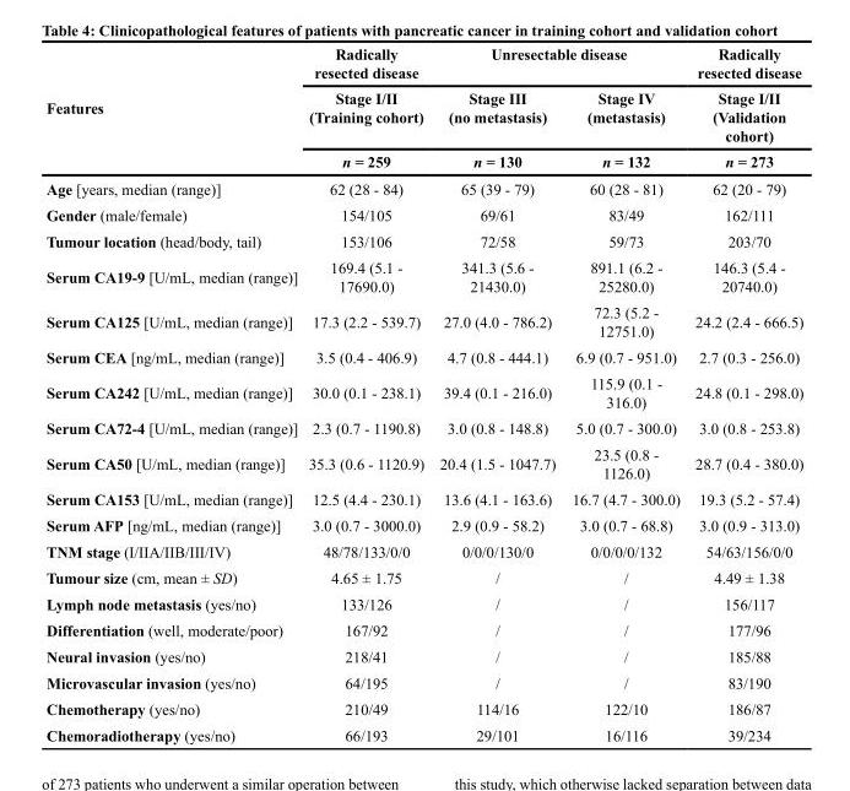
<table><thead><tr><td rowspan="3">Features</td><td rowspan="3">Radically resected disease Stage I/II (Training cohort) n = 259</td><td colspan="2">Unresectable disease</td><td rowspan="3">Radically resected disease Stage I/II (Validation cohort) n = 273</td></tr><tr><td rowspan="2">Stage III (no metastasis) n = 130</td><td rowspan="2">Stage IV (metastasis) n = 132</td></tr><tr></tr></thead><tbody><tr><td>Age [years, median (range)]</td><td>62 (28 - 84)</td><td>65 (39 - 79)</td><td>60 (28 - 81)</td><td>62 (20 - 79)</td></tr><tr><td>Gender (male/female)</td><td>154/105</td><td>69/61</td><td>83/49</td><td>162/111</td></tr><tr><td>Tumour location (head/body, tail)</td><td>153/106</td><td>72/58</td><td>59/73</td><td>203/70</td></tr><tr><td>Serum CA19-9 [U/mL, median (range)]</td><td>169.4 (5.1 - 17690.0)</td><td>341.3 (5.6 - 21430.0)</td><td>891.1 (6.2 - 25280.0)</td><td>146.3 (5.4 - 20740.0)</td></tr><tr><td>Serum CA125 [U/mL, median (range)]</td><td>17.3 (2.2 - 539.7)</td><td>27.0 (4.0 - 786.2)</td><td>72.3 (5.2 - 12751.0)</td><td>24.2 (2.4 - 666.5)</td></tr><tr><td>Serum CEA [ng/mL, median (range)]</td><td>3.5 (0.4 - 406.9)</td><td>4.7 (0.8 - 444.1)</td><td>6.9 (0.7 - 951.0)</td><td>2.7 (0.3 - 256.0)</td></tr><tr><td>Serum CA242 [U/mL, median (range)]</td><td>30.0 (0.1 - 238.1)</td><td>39.4 (0.1 - 216.0)</td><td>115.9 (0.1 - 316.0)</td><td>24.8 (0.1 - 298.0)</td></tr><tr><td>Serum CA72-4 [U/mL, median (range)]</td><td>2.3 (0.7 - 1190.8)</td><td>3.0 (0.8 - 148.8)</td><td>5.0 (0.7 - 300.0)</td><td>3.0 (0.8 - 253.8)</td></tr><tr><td>Serum CA50 [U/mL, median (range)]</td><td>35.3 (0.6 - 1120.9)</td><td>20.4 (1.5 - 1047.7)</td><td>23.5 (0.8 - 1126.0)</td><td>28.7 (0.4 - 380.0)</td></tr><tr><td>Serum CA153 [U/mL, median (range)]</td><td>12.5 (4.4 - 230.1)</td><td>13.6 (4.1 - 163.6)</td><td>16.7 (4.7 - 300.0)</td><td>19.3 (5.2 - 57.4)</td></tr><tr><td>Serum AFP [ng/mL, median (range)]</td><td>3.0 (0.7 - 3000.0)</td><td>2.9 (0.9 - 58.2)</td><td>3.0 (0.7 - 68.8)</td><td>3.0 (0.9 - 313.0)</td></tr><tr><td>TNM stage (I/IIA/IIB/III/IV)</td><td>48/78/133/0/0</td><td>0/0/0/130/0</td><td>0/0/0/0/132</td><td>54/63/156/0/0</td></tr><tr><td>Tumour size (cm, mean ± SD)</td><td>4.65 ± 1.75</td><td>/</td><td>/</td><td>4.49 ± 1.38</td></tr><tr><td>Lymph node metastasis (yes/no)</td><td>133/126</td><td>/</td><td>/</td><td>156/117</td></tr><tr><td>Differentiation (well, moderate/poor)</td><td>167/92</td><td>/</td><td>/</td><td>177/96</td></tr><tr><td>Neural invasion (yes/no)</td><td>218/41</td><td>/</td><td>/</td><td>185/88</td></tr><tr><td>Microvascular invasion (yes/no)</td><td>64/195</td><td>/</td><td>/</td><td>83/190</td></tr><tr><td>Chemotherapy (yes/no)</td><td>210/49</td><td>114/16</td><td>122/10</td><td>186/87</td></tr><tr><td>Chemoradiotherapy (yes/no)</td><td>66/193</td><td>29/101</td><td>16/116</td><td>39/234</td></tr></tbody></table>